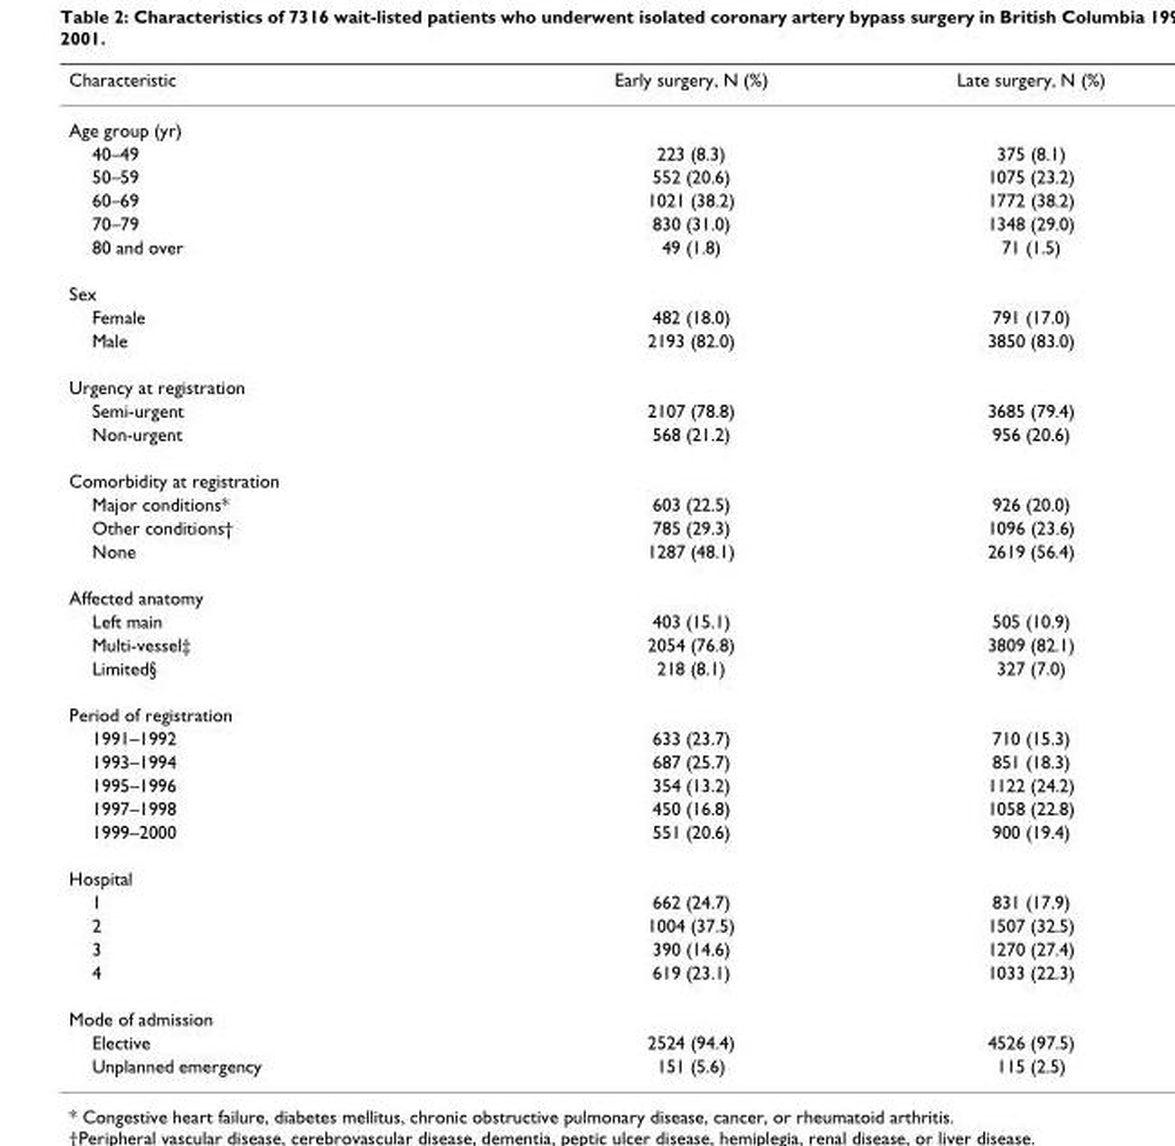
<table><thead><tr><td>Characteristic</td><td>Early surgery, N (%)</td><td>Late surgery, N (%)</td></tr></thead><tbody><tr><td colspan="3">Age group (yr)</td></tr><tr><td>40–49</td><td>223 (8.3)</td><td>375 (8.1)</td></tr><tr><td>50–59</td><td>552 (20.6)</td><td>1075 (23.2)</td></tr><tr><td>60–69</td><td>1021 (38.2)</td><td>1772 (38.2)</td></tr><tr><td>70–79</td><td>830 (31.0)</td><td>1348 (29.0)</td></tr><tr><td>80 and over</td><td>49 (1.8)</td><td>71 (1.5)</td></tr><tr><td colspan="3">Sex</td></tr><tr><td>Female</td><td>482 (18.0)</td><td>791 (17.0)</td></tr><tr><td>Male</td><td>2193 (82.0)</td><td>3850 (83.0)</td></tr><tr><td colspan="3">Urgency at registration</td></tr><tr><td>Semi-urgent</td><td>2107 (78.8)</td><td>3685 (79.4)</td></tr><tr><td>Non-urgent</td><td>568 (21.2)</td><td>956 (20.6)</td></tr><tr><td colspan="3">Comorbidity at registration</td></tr><tr><td>Major conditions*</td><td>603 (22.5)</td><td>926 (20.0)</td></tr><tr><td>Other conditions†</td><td>785 (29.3)</td><td>1096 (23.6)</td></tr><tr><td>None</td><td>1287 (48.1)</td><td>2619 (56.4)</td></tr><tr><td colspan="3">Affected anatomy</td></tr><tr><td>Left main</td><td>403 (15.1)</td><td>505 (10.9)</td></tr><tr><td>Multi-vessel‡</td><td>2054 (76.8)</td><td>3809 (82.1)</td></tr><tr><td>Limited§</td><td>218 (8.1)</td><td>327 (7.0)</td></tr><tr><td colspan="3">Period of registration</td></tr><tr><td>1991–1992</td><td>633 (23.7)</td><td>710 (15.3)</td></tr><tr><td>1993–1994</td><td>687 (25.7)</td><td>851 (18.3)</td></tr><tr><td>1995–1996</td><td>354 (13.2)</td><td>1122 (24.2)</td></tr><tr><td>1997–1998</td><td>450 (16.8)</td><td>1058 (22.8)</td></tr><tr><td>1999–2000</td><td>551 (20.6)</td><td>900 (19.4)</td></tr><tr><td colspan="3">Hospital</td></tr><tr><td>1</td><td>662 (24.7)</td><td>831 (17.9)</td></tr><tr><td>2</td><td>1004 (37.5)</td><td>1507 (32.5)</td></tr><tr><td>3</td><td>390 (14.6)</td><td>1270 (27.4)</td></tr><tr><td>4</td><td>619 (23.1)</td><td>1033 (22.3)</td></tr><tr><td colspan="3">Mode of admission</td></tr><tr><td>Elective</td><td>2524 (94.4)</td><td>4526 (97.5)</td></tr><tr><td>Unplanned emergency</td><td>151 (5.6)</td><td>115 (2.5)</td></tr></tbody></table>